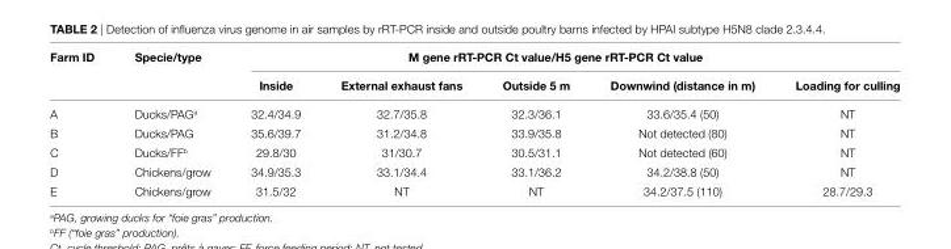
<table><thead><tr><td rowspan="2">Farm ID</td><td rowspan="2">specie/type</td><td colspan="5">M gene rRt-pCR Ct value/H5 gene rRt-pCR Ct value</td></tr><tr><td>Inside</td><td>external exhaust fans</td><td>outside 5 m</td><td>Downwind (distance in m)</td><td>Loading for culling</td></tr></thead><tbody><tr><td>A</td><td>Ducks/PAG<sup>a</sup></td><td>32.4/34.9</td><td>32.7/35.8</td><td>32.3/36.1</td><td>33.6/35.4 (50)</td><td>NT</td></tr><tr><td>B</td><td>Ducks/PAG</td><td>35.6/39.7</td><td>31.2/34.8</td><td>33.9/35.8</td><td>Not detected (80)</td><td>NT</td></tr><tr><td>C</td><td>Ducks/FF<sup>b</sup></td><td>29.8/30</td><td>31/30.7</td><td>30.5/31.1</td><td>Not detected (60)</td><td>NT</td></tr><tr><td>D</td><td>Chickens/grow</td><td>34.9/35.3</td><td>33.1/34.4</td><td>33.1/36.2</td><td>34.2/38.8 (50)</td><td>NT</td></tr><tr><td>E</td><td>Chickens/grow</td><td>31.5/32</td><td>NT</td><td>NT</td><td>34.2/37.5 (110)</td><td>28.7/29.3</td></tr></tbody></table>